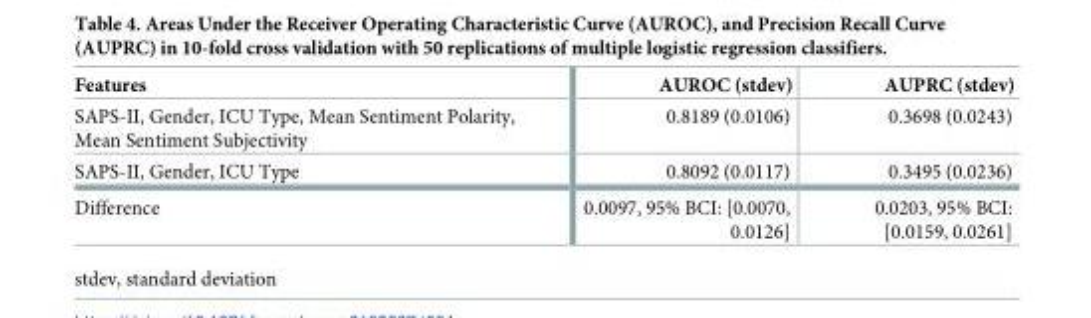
<table><thead><tr><td>Features</td><td>AUROC (stdev)</td><td>AUPRC (stdev)</td></tr></thead><tbody><tr><td>SAPS-II, Gender, ICU Type, Mean Sentiment Polarity, Mean Sentiment Subjectivity</td><td>0.8189 (0.0106)</td><td>0.3698 (0.0243)</td></tr><tr><td>SAPS-II, Gender, ICU Type</td><td>0.8092 (0.0117)</td><td>0.3495 (0.0236)</td></tr><tr><td>Difference</td><td>0.0097, 95% BCI: [0.0070, 0.0126]</td><td>0.0203, 95% BCI: [0.0159, 0.0261]</td></tr></tbody></table>